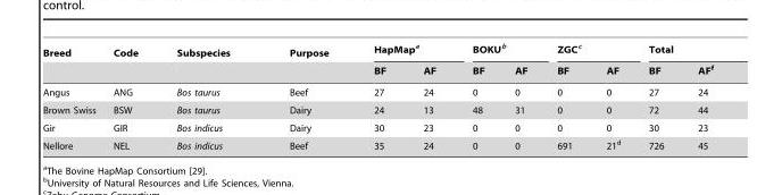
<table><thead><tr><td rowspan="2">Breed</td><td rowspan="2">Code</td><td rowspan="2">Subspecies</td><td rowspan="2">Purpose</td><td colspan="2">HapMap<sup>a</sup></td><td colspan="2">BOKU<sup>b</sup></td><td colspan="2">ZGC<sup>c</sup></td><td colspan="2">Total</td></tr><tr><td>BF</td><td>AF</td><td>BF</td><td>AF</td><td>BF</td><td>AF</td><td>BF</td><td>AF<sup>f</sup></td></tr></thead><tbody><tr><td>Angus</td><td>ANG</td><td>Bos taurus</td><td>Beef</td><td>27</td><td>24</td><td>0</td><td>0</td><td>0</td><td>0</td><td>27</td><td>24</td></tr><tr><td>Brown Swiss</td><td>BSW</td><td>Bos taurus</td><td>Dairy</td><td>24</td><td>13</td><td>48</td><td>31</td><td>0</td><td>0</td><td>72</td><td>44</td></tr><tr><td>Gir</td><td>GIR</td><td>Bos indicus</td><td>Dairy</td><td>30</td><td>23</td><td>0</td><td>0</td><td>0</td><td>0</td><td>30</td><td>23</td></tr><tr><td>Nellore</td><td>NEL</td><td>Bos indicus</td><td>Beef</td><td>35</td><td>24</td><td>0</td><td>0</td><td>691</td><td>21<sup>d</sup></td><td>726</td><td>45</td></tr></tbody></table>